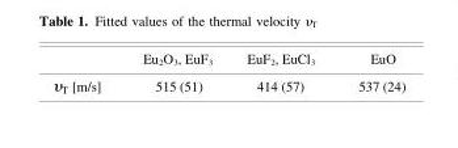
<table><thead><tr><td></td><td>Eu<sub>2</sub>O<sub>3</sub>, EuF<sub>3</sub></td><td>EuF<sub>2</sub>, EuCl<sub>3</sub></td><td>EuO</td></tr></thead><tbody><tr><td>υ<sub>T</sub> [m/s]</td><td>515 (51)</td><td>414 (57)</td><td>537 (24)</td></tr></tbody></table>